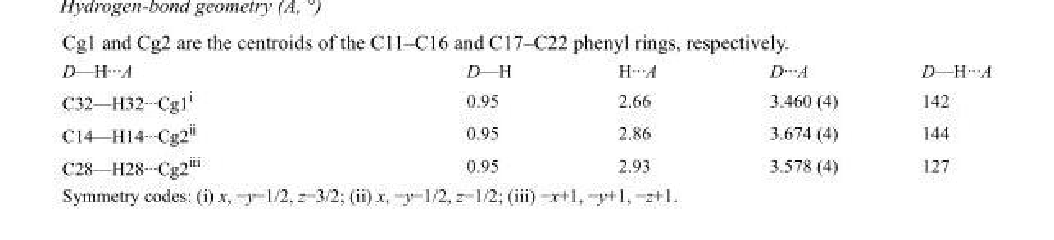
<table><tbody><tr><td>D—H···A</td><td>D—H</td><td>H···A</td><td>D···A</td><td>D—H···A</td></tr><tr><td>C32—H32···Cg1<sup>i</sup></td><td>0.95</td><td>2.66</td><td>3.460 (4)</td><td>142</td></tr><tr><td>C14—H14···Cg2<sup>ii</sup></td><td>0.95</td><td>2.86</td><td>3.674 (4)</td><td>144</td></tr><tr><td>C28—H28···Cg2<sup>iii</sup></td><td>0.95</td><td>2.93</td><td>3.578 (4)</td><td>127</td></tr></tbody></table>